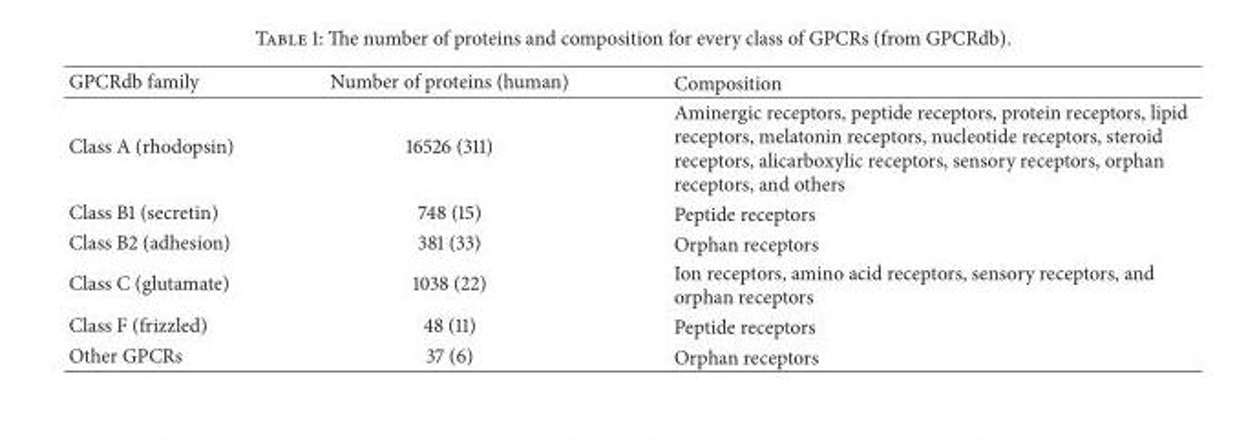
<table><thead><tr><td>GPCRdb family</td><td>Number of proteins (human)</td><td>Composition</td></tr></thead><tbody><tr><td>Class A (rhodopsin)</td><td>16526 (311)</td><td>Aminergic receptors, peptide receptors, protein receptors, lipid receptors, melatonin receptors, nucleotide receptors, steroid receptors, alicarboxylic receptors, sensory receptors, orphan receptors, and others</td></tr><tr><td>Class B1 (secretin)</td><td>748 (15)</td><td>Peptide receptors</td></tr><tr><td>Class B2 (adhesion)</td><td>381 (33)</td><td>Orphan receptors</td></tr><tr><td>Class C (glutamate)</td><td>1038 (22)</td><td>Ion receptors, amino acid receptors, sensory receptors, and orphan receptors</td></tr><tr><td>Class F (frizzled)</td><td>48 (11)</td><td>Peptide receptors</td></tr><tr><td>Other GPCRs</td><td>37 (6)</td><td>Orphan receptors</td></tr></tbody></table>